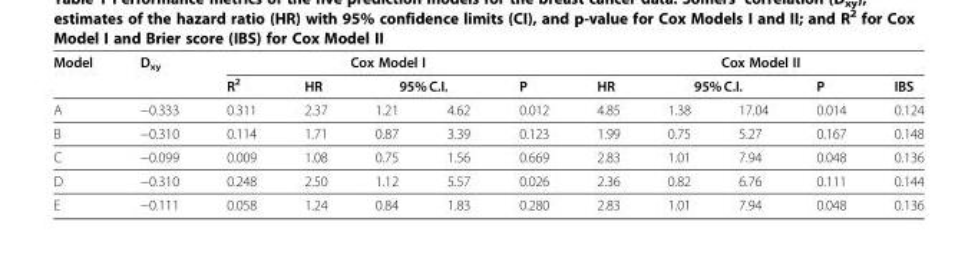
<table><thead><tr><td rowspan="3">Model A</td><td rowspan="3">D<sub>xy</sub> −0.333</td><td colspan="5">Cox Model I</td><td colspan="5">Cox Model II</td></tr><tr><td rowspan="2">R<sup>2</sup> 0.311</td><td rowspan="2">HR 2.37</td><td colspan="2">95% C.I.</td><td rowspan="2">P 0.012</td><td rowspan="2">HR 4.85</td><td colspan="2">95% C.I.</td><td rowspan="2">P 0.014</td><td rowspan="2">IBS 0.124</td></tr><tr><td>1.21</td><td>4.62</td><td>1.38</td><td>17.04</td></tr></thead><tbody><tr><td>B</td><td>−0.310</td><td>0.114</td><td>1.71</td><td>0.87</td><td>3.39</td><td>0.123</td><td>1.99</td><td>0.75</td><td>5.27</td><td>0.167</td><td>0.148</td></tr><tr><td>C</td><td>−0.099</td><td>0.009</td><td>1.08</td><td>0.75</td><td>1.56</td><td>0.669</td><td>2.83</td><td>1.01</td><td>7.94</td><td>0.048</td><td>0.136</td></tr><tr><td>D</td><td>−0.310</td><td>0.248</td><td>2.50</td><td>1.12</td><td>5.57</td><td>0.026</td><td>2.36</td><td>0.82</td><td>6.76</td><td>0.111</td><td>0.144</td></tr><tr><td>E</td><td>−0.111</td><td>0.058</td><td>1.24</td><td>0.84</td><td>1.83</td><td>0.280</td><td>2.83</td><td>1.01</td><td>7.94</td><td>0.048</td><td>0.136</td></tr></tbody></table>